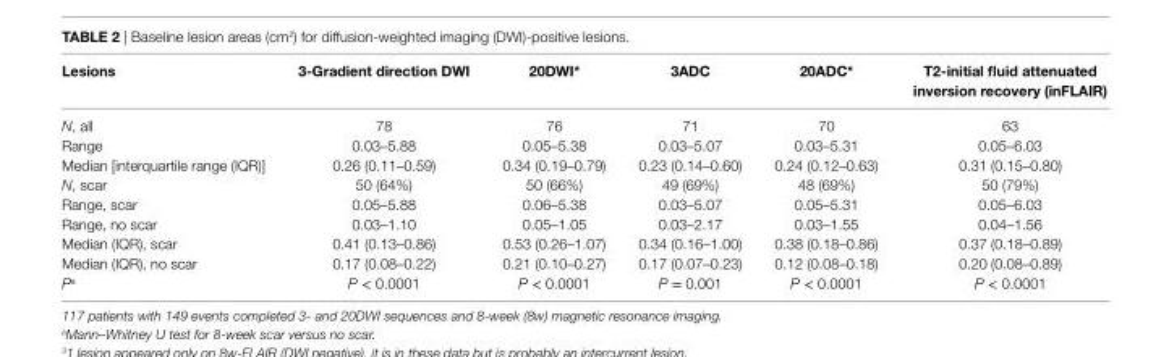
<table><thead><tr><td>lesions</td><td>3-gradient direction DWi</td><td>20DWi*</td><td>3aDc</td><td>20aDc*</td><td>T2-initial fluid attenuated inversion recovery (inFlair)</td></tr></thead><tbody><tr><td>N, all</td><td>78</td><td>76</td><td>71</td><td>70</td><td>63</td></tr><tr><td>Range</td><td>0.03–5.88</td><td>0.05–5.38</td><td>0.03–5.07</td><td>0.03–5.31</td><td>0.05–6.03</td></tr><tr><td>Median [interquartile range (IQR)]</td><td>0.26 (0.11–0.59)</td><td>0.34 (0.19–0.79)</td><td>0.23 (0.14–0.60)</td><td>0.24 (0.12–0.63)</td><td>0.31 (0.15–0.80)</td></tr><tr><td>N, scar</td><td>50 (64%)</td><td>50 (66%)</td><td>49 (69%)</td><td>48 (69%)</td><td>50 (79%)</td></tr><tr><td>Range, scar</td><td>0.05–5.88</td><td>0.06–5.38</td><td>0.03–5.07</td><td>0.05–5.31</td><td>0.05–6.03</td></tr><tr><td>Range, no scar</td><td>0.03–1.10</td><td>0.05–1.05</td><td>0.03–2.17</td><td>0.03–1.55</td><td>0.04–1.56</td></tr><tr><td>Median (IQR), scar</td><td>0.41 (0.13–0.86)</td><td>0.53 (0.26–1.07)</td><td>0.34 (0.16–1.00)</td><td>0.38 (0.18–0.86)</td><td>0.37 (0.18–0.89)</td></tr><tr><td>Median (IQR), no scar</td><td>0.17 (0.08–0.22)</td><td>0.21 (0.10–0.27)</td><td>0.17 (0.07–0.23)</td><td>0.12 (0.08–0.18)</td><td>0.20 (0.08–0.89)</td></tr><tr><td>P<sup>a</sup></td><td>P &lt; 0.0001</td><td>P &lt; 0.0001</td><td>P = 0.001</td><td>P &lt; 0.0001</td><td>P &lt; 0.0001</td></tr></tbody></table>